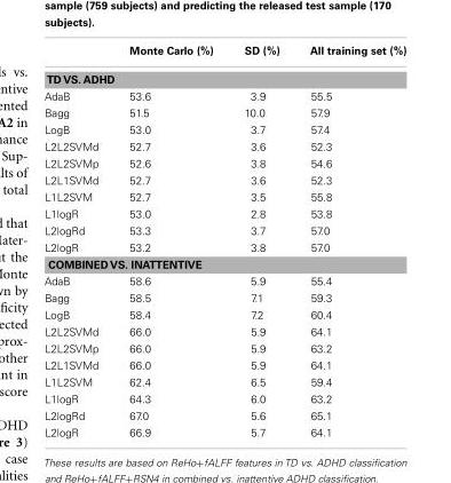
<table><thead><tr><td></td><td>Monte Carlo (%)</td><td>SD (%)</td><td>All training set (%)</td></tr></thead><tbody><tr><td colspan="4">TD VS. ADHD</td></tr><tr><td>AdaB</td><td>53.6</td><td>3.9</td><td>55.5</td></tr><tr><td>Bagg</td><td>51.5</td><td>10.0</td><td>57.9</td></tr><tr><td>LogB</td><td>53.0</td><td>3.7</td><td>57.4</td></tr><tr><td>L2L2SVMd</td><td>52.7</td><td>3.6</td><td>52.3</td></tr><tr><td>L2L2SVMp</td><td>52.6</td><td>3.8</td><td>54.6</td></tr><tr><td>L2L1SVMd</td><td>52.7</td><td>3.6</td><td>52.3</td></tr><tr><td>L1L2SVM</td><td>52.7</td><td>3.5</td><td>55.8</td></tr><tr><td>L1logR</td><td>53.0</td><td>2.8</td><td>53.8</td></tr><tr><td>L2logRd</td><td>53.3</td><td>3.7</td><td>57.0</td></tr><tr><td>L2logR</td><td>53.2</td><td>3.8</td><td>57.0</td></tr><tr><td colspan="4">COMBINED VS. INATTENTIVE</td></tr><tr><td>AdaB</td><td>58.6</td><td>5.9</td><td>55.4</td></tr><tr><td>Bagg</td><td>58.5</td><td>7.1</td><td>59.3</td></tr><tr><td>LogB</td><td>58.4</td><td>7.2</td><td>60.4</td></tr><tr><td>L2L2SVMd</td><td>66.0</td><td>5.9</td><td>64.1</td></tr><tr><td>L2L2SVMp</td><td>66.0</td><td>5.9</td><td>63.2</td></tr><tr><td>L2L1SVMd</td><td>66.0</td><td>5.9</td><td>64.1</td></tr><tr><td>L1L2SVM</td><td>62.4</td><td>6.5</td><td>59.4</td></tr><tr><td>L1logR</td><td>64.3</td><td>6.0</td><td>63.2</td></tr><tr><td>L2logRd</td><td>67.0</td><td>5.6</td><td>65.1</td></tr><tr><td>L2logR</td><td>66.9</td><td>5.7</td><td>64.1</td></tr></tbody></table>